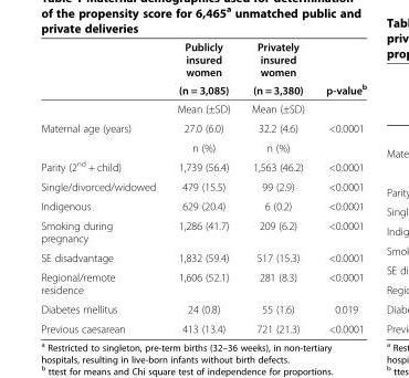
<table><thead><tr><td rowspan="2"></td><td rowspan="2">Publicly insured women (n = 3,085)</td><td rowspan="2">Privately insured women (n = 3,380)</td><td rowspan="2">p-value<sup>b</sup></td></tr><tr></tr></thead><tbody><tr><td></td><td>Mean (±SD)</td><td>Mean (±SD)</td><td></td></tr><tr><td rowspan="2">Maternal age (years)</td><td>27.0 (6.0)</td><td>32.2 (4.6)</td><td>&lt;0.0001</td></tr><tr><td>n (%)</td><td>n (%)</td><td></td></tr><tr><td>Parity (2<sup>nd</sup> + child)</td><td>1,739 (56.4)</td><td>1,563 (46.2)</td><td>&lt;0.0001</td></tr><tr><td>Single/divorced/widowed</td><td>479 (15.5)</td><td>99 (2.9)</td><td>&lt;0.0001</td></tr><tr><td>Indigenous</td><td>629 (20.4)</td><td>6 (0.2)</td><td>&lt;0.0001</td></tr><tr><td>Smoking during pregnancy</td><td>1,286 (41.7)</td><td>209 (6.2)</td><td>&lt;0.0001</td></tr><tr><td>SE disadvantage</td><td>1,832 (59.4)</td><td>517 (15.3)</td><td>&lt;0.0001</td></tr><tr><td>Regional/remote residence</td><td>1,606 (52.1)</td><td>281 (8.3)</td><td>&lt;0.0001</td></tr><tr><td>Diabetes mellitus</td><td>24 (0.8)</td><td>55 (1.6)</td><td>0.019</td></tr><tr><td>Previous caesarean</td><td>413 (13.4)</td><td>721 (21.3)</td><td>&lt;0.0001</td></tr></tbody></table>